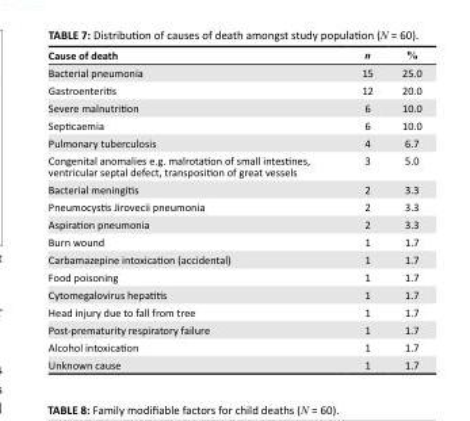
<table><thead><tr><td>Cause of death</td><td>n</td><td>%</td></tr></thead><tbody><tr><td>Bacterial pneumonia</td><td>15</td><td>25.0</td></tr><tr><td>Gastroenteritis</td><td>12</td><td>20.0</td></tr><tr><td>Severe malnutrition</td><td>6</td><td>10.0</td></tr><tr><td>Septicaemia</td><td>6</td><td>10.0</td></tr><tr><td>Pulmonary tuberculosis</td><td>4</td><td>6.7</td></tr><tr><td>Congenital anomalies e.g. malrotation of small intestines, ventricular septal defect, transposition of great vessels</td><td>3</td><td>5.0</td></tr><tr><td>Bacterial meningitis</td><td>2</td><td>3.3</td></tr><tr><td>Pneumocystis Jirovecii pneumonia</td><td>2</td><td>3.3</td></tr><tr><td>Aspiration pneumonia</td><td>2</td><td>3.3</td></tr><tr><td>Burn wound</td><td>1</td><td>1.7</td></tr><tr><td>Carbamazepine intoxication (accidental)</td><td>1</td><td>1.7</td></tr><tr><td>Food poisoning</td><td>1</td><td>1.7</td></tr><tr><td>Cytomegalovirus hepatitis</td><td>1</td><td>1.7</td></tr><tr><td>Head injury due to fall from tree</td><td>1</td><td>1.7</td></tr><tr><td>Post-prematurity respiratory failure</td><td>1</td><td>1.7</td></tr><tr><td>Alcohol intoxication</td><td>1</td><td>1.7</td></tr><tr><td>Unknown cause</td><td>1</td><td>1.7</td></tr></tbody></table>